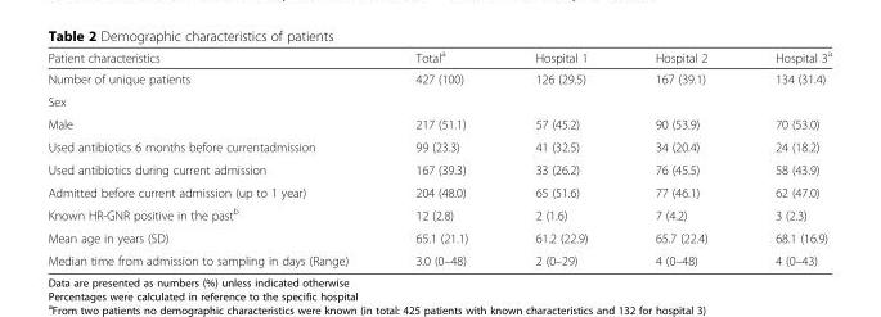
<table><thead><tr><td>Patient characteristics</td><td>Total<sup>a</sup></td><td>Hospital 1</td><td>Hospital 2</td><td>Hospital 3<sup>a</sup></td></tr></thead><tbody><tr><td>Number of unique patients</td><td>427 (100)</td><td>126 (29.5)</td><td>167 (39.1)</td><td>134 (31.4)</td></tr><tr><td colspan="5">Sex</td></tr><tr><td>Male</td><td>217 (51.1)</td><td>57 (45.2)</td><td>90 (53.9)</td><td>70 (53.0)</td></tr><tr><td>Used antibiotics 6 months before currentadmission</td><td>99 (23.3)</td><td>41 (32.5)</td><td>34 (20.4)</td><td>24 (18.2)</td></tr><tr><td>Used antibiotics during current admission</td><td>167 (39.3)</td><td>33 (26.2)</td><td>76 (45.5)</td><td>58 (43.9)</td></tr><tr><td>Admitted before current admission (up to 1 year)</td><td>204 (48.0)</td><td>65 (51.6)</td><td>77 (46.1)</td><td>62 (47.0)</td></tr><tr><td>Known HR-GNR positive in the past<sup>b</sup></td><td>12 (2.8)</td><td>2 (1.6)</td><td>7 (4.2)</td><td>3 (2.3)</td></tr><tr><td>Mean age in years (SD)</td><td>65.1 (21.1)</td><td>61.2 (22.9)</td><td>65.7 (22.4)</td><td>68.1 (16.9)</td></tr><tr><td>Median time from admission to sampling in days (Range)</td><td>3.0 (0–48)</td><td>2 (0–29)</td><td>4 (0–48)</td><td>4 (0–43)</td></tr></tbody></table>